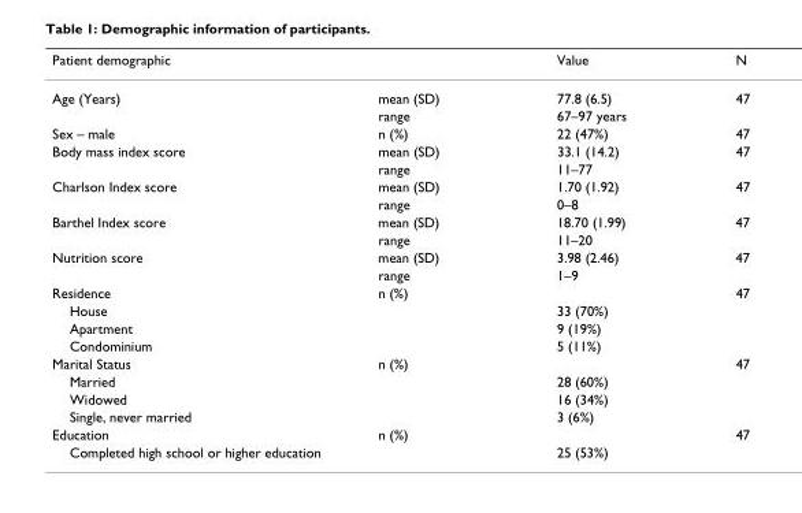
<table><thead><tr><td>Patient demographic</td><td></td><td>Value</td><td>N</td></tr></thead><tbody><tr><td rowspan="2">Age (Years)</td><td>mean (SD)</td><td>77.8 (6.5)</td><td>47</td></tr><tr><td>range</td><td>67–97 years</td><td></td></tr><tr><td>Sex – male</td><td>n (%)</td><td>22 (47%)</td><td>47</td></tr><tr><td rowspan="2">Body mass index score</td><td>mean (SD)</td><td>33.1 (14.2)</td><td>47</td></tr><tr><td>range</td><td>11–77</td><td></td></tr><tr><td rowspan="2">Charlson Index score</td><td>mean (SD)</td><td>1.70 (1.92)</td><td>47</td></tr><tr><td>range</td><td>0–8</td><td></td></tr><tr><td rowspan="2">Barthel Index score</td><td>mean (SD)</td><td>18.70 (1.99)</td><td>47</td></tr><tr><td>range</td><td>11–20</td><td></td></tr><tr><td rowspan="2">Nutrition score</td><td>mean (SD)</td><td>3.98 (2.46)</td><td>47</td></tr><tr><td>range</td><td>1–9</td><td></td></tr><tr><td>Residence</td><td>n (%)</td><td></td><td>47</td></tr><tr><td>House</td><td></td><td>33 (70%)</td><td></td></tr><tr><td>Apartment</td><td></td><td>9 (19%)</td><td></td></tr><tr><td>Condominium</td><td></td><td>5 (11%)</td><td></td></tr><tr><td>Marital Status</td><td>n (%)</td><td></td><td>47</td></tr><tr><td>Married</td><td></td><td>28 (60%)</td><td></td></tr><tr><td>Widowed</td><td></td><td>16 (34%)</td><td></td></tr><tr><td>Single, never married</td><td></td><td>3 (6%)</td><td></td></tr><tr><td>Education</td><td>n (%)</td><td></td><td>47</td></tr><tr><td>Completed high school or higher education</td><td></td><td>25 (53%)</td><td></td></tr></tbody></table>